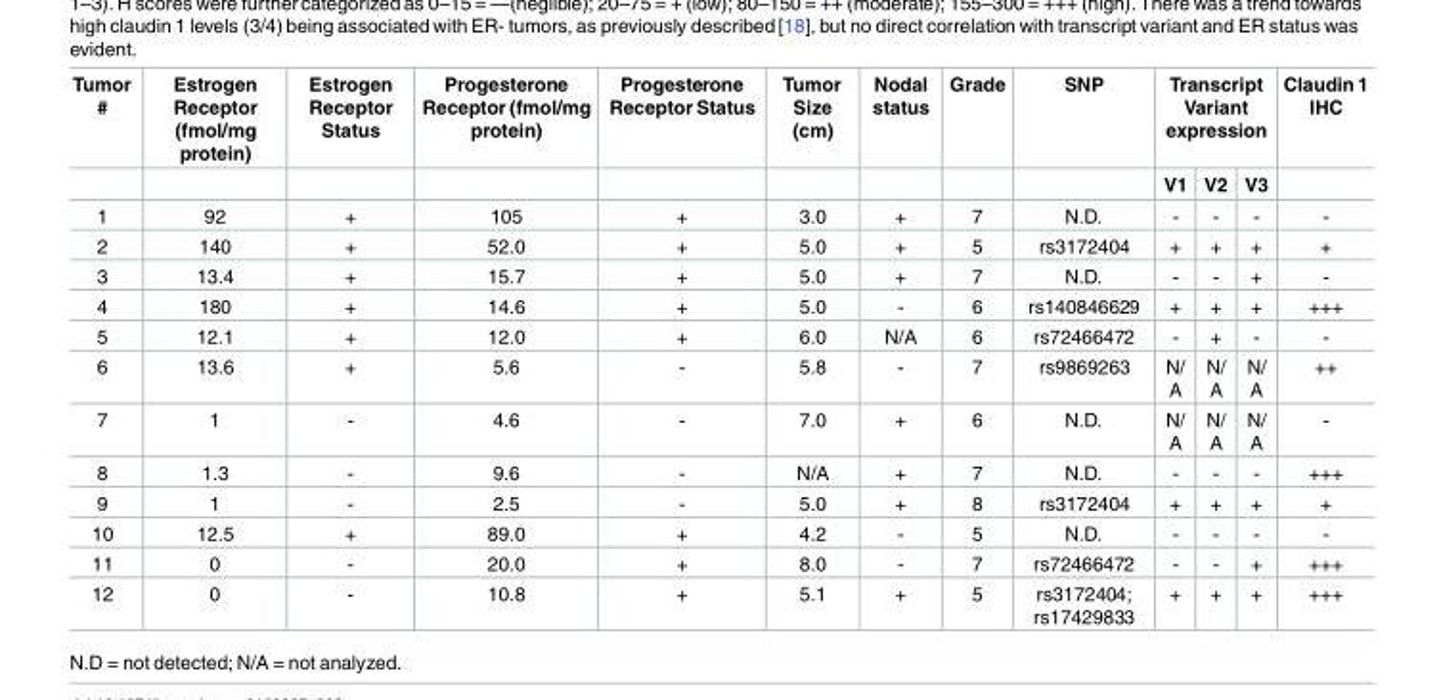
<table><thead><tr><td rowspan="2">Tumor #</td><td rowspan="2">Estrogen Receptor (fmol/mg protein)</td><td rowspan="2">Estrogen Receptor Status</td><td rowspan="2">Progesterone Receptor (fmol/mg protein)</td><td rowspan="2">Progesterone Receptor Status</td><td rowspan="2">Tumor Size (cm)</td><td rowspan="2">Nodal status</td><td rowspan="2">Grade</td><td rowspan="2">SNP</td><td colspan="3">Transcript Variant expression</td><td rowspan="2">Claudin 1 IHC</td></tr><tr><td>V1</td><td>V2</td><td>V3</td></tr></thead><tbody><tr><td>1</td><td>92</td><td>+</td><td>105</td><td>+</td><td>3.0</td><td>+</td><td>7</td><td>N.D.</td><td>-</td><td>-</td><td>-</td><td>-</td></tr><tr><td>2</td><td>140</td><td>+</td><td>52.0</td><td>+</td><td>5.0</td><td>+</td><td>5</td><td>rs3172404</td><td>+</td><td>+</td><td>+</td><td>+</td></tr><tr><td>3</td><td>13.4</td><td>+</td><td>15.7</td><td>+</td><td>5.0</td><td>+</td><td>7</td><td>N.D.</td><td>-</td><td>-</td><td>+</td><td>-</td></tr><tr><td>4</td><td>180</td><td>+</td><td>14.6</td><td>+</td><td>5.0</td><td>-</td><td>6</td><td>rs140846629</td><td>+</td><td>+</td><td>+</td><td>+++</td></tr><tr><td>5</td><td>12.1</td><td>+</td><td>12.0</td><td>+</td><td>6.0</td><td>N/A</td><td>6</td><td>rs72466472</td><td>-</td><td>+</td><td>-</td><td>-</td></tr><tr><td>6</td><td>13.6</td><td>+</td><td>5.6</td><td>-</td><td>5.8</td><td>-</td><td>7</td><td>rs9869263</td><td>N/ A</td><td>N/ A</td><td>N/ A</td><td>++</td></tr><tr><td>7</td><td>1</td><td>-</td><td>4.6</td><td>-</td><td>7.0</td><td>+</td><td>6</td><td>N.D.</td><td>N/ A</td><td>N/ A</td><td>N/ A</td><td>-</td></tr><tr><td>8</td><td>1.3</td><td>-</td><td>9.6</td><td>-</td><td>N/A</td><td>+</td><td>7</td><td>N.D.</td><td>-</td><td>-</td><td>-</td><td>+++</td></tr><tr><td>9</td><td>1</td><td>-</td><td>2.5</td><td>-</td><td>5.0</td><td>+</td><td>8</td><td>rs3172404</td><td>+</td><td>+</td><td>+</td><td>+</td></tr><tr><td>10</td><td>12.5</td><td>+</td><td>89.0</td><td>+</td><td>4.2</td><td>-</td><td>5</td><td>N.D.</td><td>-</td><td>-</td><td>-</td><td>-</td></tr><tr><td>11</td><td>0</td><td>-</td><td>20.0</td><td>+</td><td>8.0</td><td>-</td><td>7</td><td>rs72466472</td><td>-</td><td>-</td><td>+</td><td>+++</td></tr><tr><td>12</td><td>0</td><td>-</td><td>10.8</td><td>+</td><td>5.1</td><td>+</td><td>5</td><td>rs3172404; rs17429833</td><td>+</td><td>+</td><td>+</td><td>+++</td></tr></tbody></table>